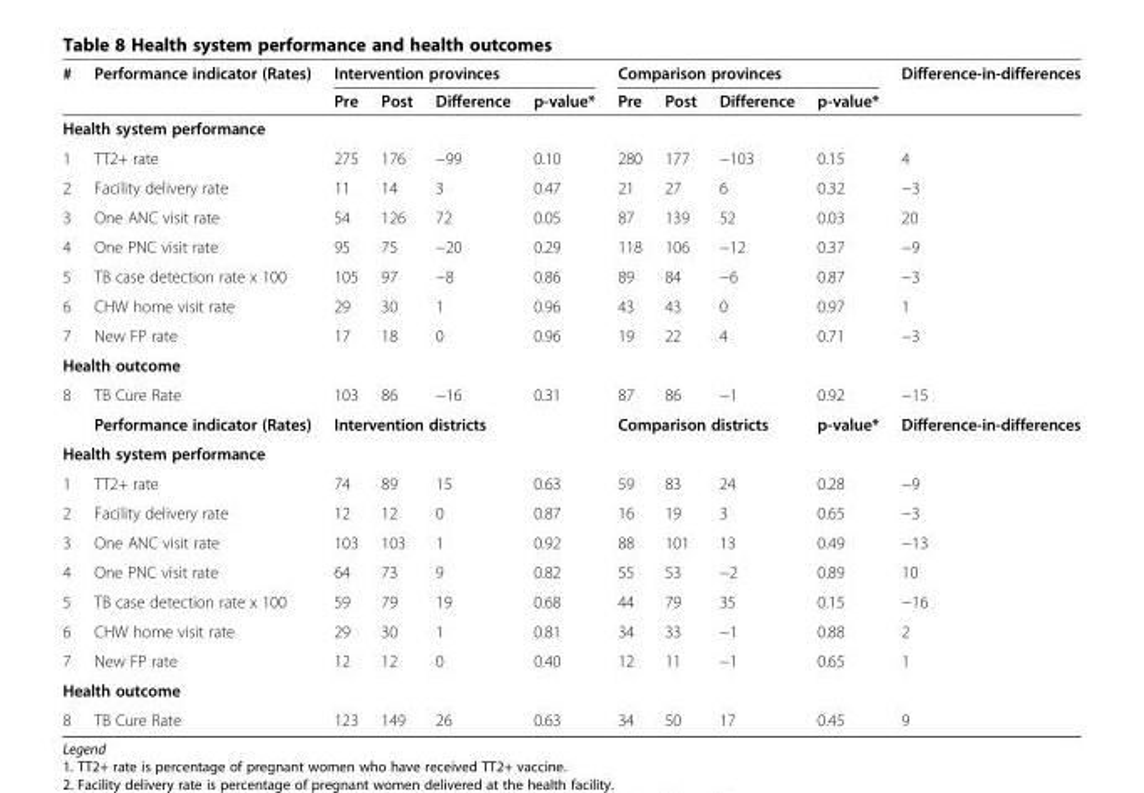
<table><thead><tr><td rowspan="2">#</td><td rowspan="2">Performance indicator (Rates)</td><td colspan="4">Intervention provinces</td><td colspan="4">Comparison provinces</td><td rowspan="2">Difference-in-differences</td></tr><tr><td>Pre</td><td>Post</td><td>Difference</td><td>p-value*</td><td>Pre</td><td>Post</td><td>Difference</td><td>p-value*</td></tr></thead><tbody><tr><td colspan="11">Health system performance</td></tr><tr><td>1</td><td>TT2+ rate</td><td>275</td><td>176</td><td>−99</td><td>0.10</td><td>280</td><td>177</td><td>−103</td><td>0.15</td><td>4</td></tr><tr><td>2</td><td>Facility delivery rate</td><td>11</td><td>14</td><td>3</td><td>0.47</td><td>21</td><td>27</td><td>6</td><td>0.32</td><td>−3</td></tr><tr><td>3</td><td>One ANC visit rate</td><td>54</td><td>126</td><td>72</td><td>0.05</td><td>87</td><td>139</td><td>52</td><td>0.03</td><td>20</td></tr><tr><td>4</td><td>One PNC visit rate</td><td>95</td><td>75</td><td>−20</td><td>0.29</td><td>118</td><td>106</td><td>−12</td><td>0.37</td><td>−9</td></tr><tr><td>5</td><td>TB case detection rate x 100</td><td>105</td><td>97</td><td>−8</td><td>0.86</td><td>89</td><td>84</td><td>−6</td><td>0.87</td><td>−3</td></tr><tr><td>6</td><td>CHW home visit rate</td><td>29</td><td>30</td><td>1</td><td>0.96</td><td>43</td><td>43</td><td>0</td><td>0.97</td><td>1</td></tr><tr><td>7</td><td>New FP rate</td><td>17</td><td>18</td><td>0</td><td>0.96</td><td>19</td><td>22</td><td>4</td><td>0.71</td><td>−3</td></tr><tr><td colspan="11">Health outcome</td></tr><tr><td rowspan="2">8</td><td>TB Cure Rate</td><td>103</td><td>86</td><td>−16</td><td>0.31</td><td>87</td><td>86</td><td>−1</td><td>0.92</td><td>−15</td></tr><tr><td>Performance indicator (Rates)</td><td colspan="4">Intervention districts</td><td colspan="3">Comparison districts</td><td>p-value*</td><td>Difference-in-differences</td></tr><tr><td colspan="11">Health system performance</td></tr><tr><td>1</td><td>TT2+ rate</td><td>74</td><td>89</td><td>15</td><td>0.63</td><td>59</td><td>83</td><td>24</td><td>0.28</td><td>−9</td></tr><tr><td>2</td><td>Facility delivery rate</td><td>12</td><td>12</td><td>0</td><td>0.87</td><td>16</td><td>19</td><td>3</td><td>0.65</td><td>−3</td></tr><tr><td>3</td><td>One ANC visit rate</td><td>103</td><td>103</td><td>1</td><td>0.92</td><td>88</td><td>101</td><td>13</td><td>0.49</td><td>−13</td></tr><tr><td>4</td><td>One PNC visit rate</td><td>64</td><td>73</td><td>9</td><td>0.82</td><td>55</td><td>53</td><td>−2</td><td>0.89</td><td>10</td></tr><tr><td>5</td><td>TB case detection rate x 100</td><td>59</td><td>79</td><td>19</td><td>0.68</td><td>44</td><td>79</td><td>35</td><td>0.15</td><td>−16</td></tr><tr><td>6</td><td>CHW home visit rate</td><td>29</td><td>30</td><td>1</td><td>0.81</td><td>34</td><td>33</td><td>−1</td><td>0.88</td><td>2</td></tr><tr><td>7</td><td>New FP rate</td><td>12</td><td>12</td><td>0</td><td>0.40</td><td>12</td><td>11</td><td>−1</td><td>0.65</td><td>1</td></tr><tr><td colspan="11">Health outcome</td></tr><tr><td>8</td><td>TB Cure Rate</td><td>123</td><td>149</td><td>26</td><td>0.63</td><td>34</td><td>50</td><td>17</td><td>0.45</td><td>9</td></tr></tbody></table>